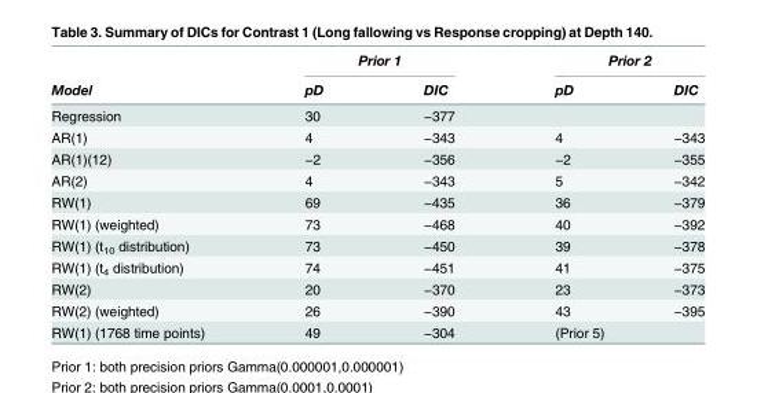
<table><thead><tr><td rowspan="2">Model</td><td colspan="2">Prior 1</td><td colspan="2">Prior 2</td></tr><tr><td>pD</td><td>DIC</td><td>pD</td><td>DIC</td></tr></thead><tbody><tr><td>Regression</td><td>30</td><td>−377</td><td></td><td></td></tr><tr><td>AR(1)</td><td>4</td><td>−343</td><td>4</td><td>−343</td></tr><tr><td>AR(1)(12)</td><td>−2</td><td>−356</td><td>−2</td><td>−355</td></tr><tr><td>AR(2)</td><td>4</td><td>−343</td><td>5</td><td>−342</td></tr><tr><td>RW(1)</td><td>69</td><td>−435</td><td>36</td><td>−379</td></tr><tr><td>RW(1) (weighted)</td><td>73</td><td>−468</td><td>40</td><td>−392</td></tr><tr><td>RW(1) (t<sub>10</sub> distribution)</td><td>73</td><td>−450</td><td>39</td><td>−378</td></tr><tr><td>RW(1) (t<sub>4</sub> distribution)</td><td>74</td><td>−451</td><td>41</td><td>−375</td></tr><tr><td>RW(2)</td><td>20</td><td>−370</td><td>23</td><td>−373</td></tr><tr><td>RW(2) (weighted)</td><td>26</td><td>−390</td><td>43</td><td>−395</td></tr><tr><td>RW(1) (1768 time points)</td><td>49</td><td>−304</td><td colspan="2">(Prior 5)</td></tr></tbody></table>